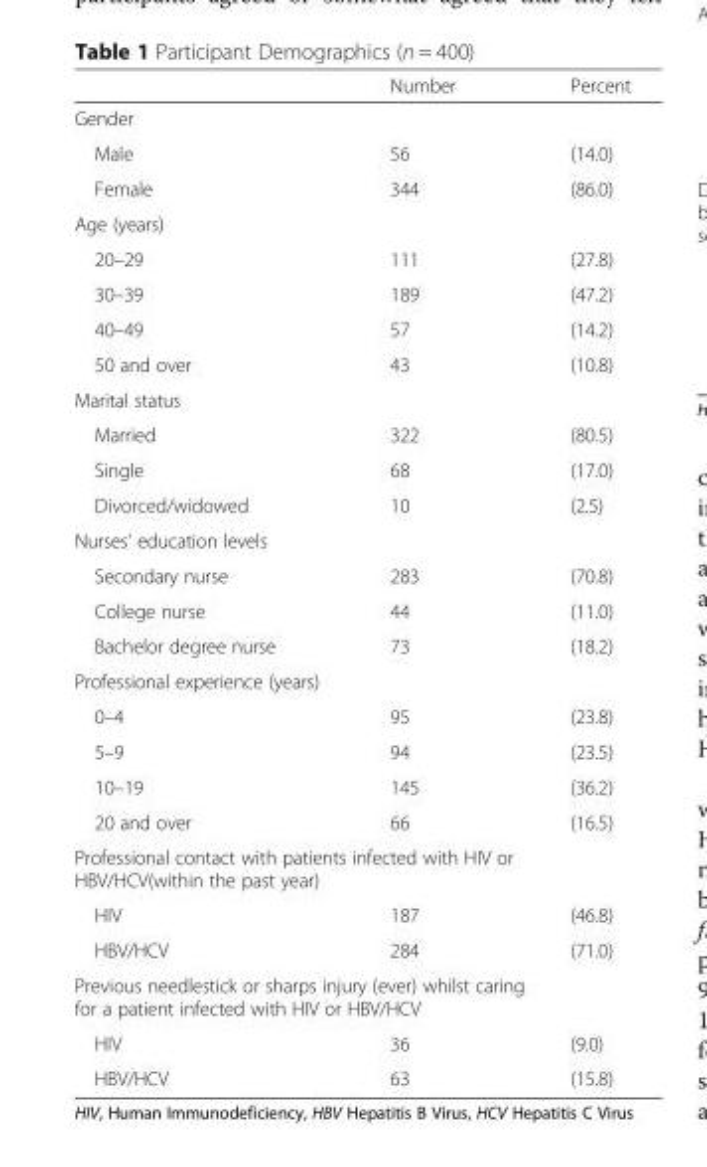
<table><thead><tr><td></td><td>Number</td><td>Percent</td></tr></thead><tbody><tr><td colspan="3">Gender</td></tr><tr><td>Male</td><td>56</td><td>(14.0)</td></tr><tr><td>Female</td><td>344</td><td>(86.0)</td></tr><tr><td colspan="3">Age (years)</td></tr><tr><td>20–29</td><td>111</td><td>(27.8)</td></tr><tr><td>30–39</td><td>189</td><td>(47.2)</td></tr><tr><td>40–49</td><td>57</td><td>(14.2)</td></tr><tr><td>50 and over</td><td>43</td><td>(10.8)</td></tr><tr><td colspan="3">Marital status</td></tr><tr><td>Married</td><td>322</td><td>(80.5)</td></tr><tr><td>Single</td><td>68</td><td>(17.0)</td></tr><tr><td>Divorced/widowed</td><td>10</td><td>(2.5)</td></tr><tr><td colspan="3">Nurses’ education levels</td></tr><tr><td>Secondary nurse</td><td>283</td><td>(70.8)</td></tr><tr><td>College nurse</td><td>44</td><td>(11.0)</td></tr><tr><td>Bachelor degree nurse</td><td>73</td><td>(18.2)</td></tr><tr><td colspan="3">Professional experience (years)</td></tr><tr><td>0–4</td><td>95</td><td>(23.8)</td></tr><tr><td>5–9</td><td>94</td><td>(23.5)</td></tr><tr><td>10–19</td><td>145</td><td>(36.2)</td></tr><tr><td>20 and over</td><td>66</td><td>(16.5)</td></tr><tr><td colspan="3">Professional contact with patients infected with HIV or HBV/HCV(within the past year)</td></tr><tr><td>HIV</td><td>187</td><td>(46.8)</td></tr><tr><td>HBV/HCV</td><td>284</td><td>(71.0)</td></tr><tr><td colspan="3">Previous needlestick or sharps injury (ever) whilst caring for a patient infected with HIV or HBV/HCV</td></tr><tr><td>HIV</td><td>36</td><td>(9.0)</td></tr><tr><td>HBV/HCV</td><td>63</td><td>(15.8)</td></tr></tbody></table>